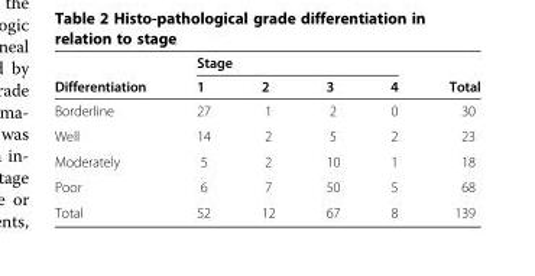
<table><thead><tr><td rowspan="2">Differentiation</td><td colspan="4">Stage</td><td rowspan="2">Total</td></tr><tr><td>1</td><td>2</td><td>3</td><td>4</td></tr></thead><tbody><tr><td>Borderline</td><td>27</td><td>1</td><td>2</td><td>0</td><td>30</td></tr><tr><td>Well</td><td>14</td><td>2</td><td>5</td><td>2</td><td>23</td></tr><tr><td>Moderately</td><td>5</td><td>2</td><td>10</td><td>1</td><td>18</td></tr><tr><td>Poor</td><td>6</td><td>7</td><td>50</td><td>5</td><td>68</td></tr><tr><td>Total</td><td>52</td><td>12</td><td>67</td><td>8</td><td>139</td></tr></tbody></table>